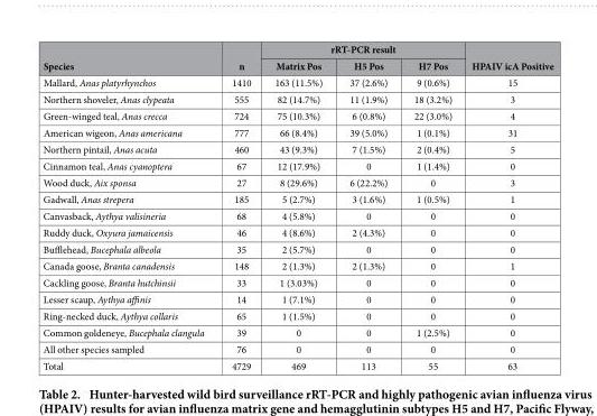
<table><thead><tr><td rowspan="2">Species</td><td rowspan="2">n</td><td colspan="3">rRT-PCR result</td><td rowspan="2">HPAIV icA Positive</td></tr><tr><td>Matrix Pos</td><td>H5 Pos</td><td>H7 Pos</td></tr></thead><tbody><tr><td>Mallard, Anas platyrhynchos</td><td>1410</td><td>163 (11.5%)</td><td>37 (2.6%)</td><td>9 (0.6%)</td><td>15</td></tr><tr><td>Northern shoveler, Anas clypeata</td><td>555</td><td>82 (14.7%)</td><td>11 (1.9%)</td><td>18 (3.2%)</td><td>3</td></tr><tr><td>Green-winged teal, Anas crecca</td><td>724</td><td>75 (10.3%)</td><td>6 (0.8%)</td><td>22 (3.0%)</td><td>4</td></tr><tr><td>American wigeon, Anas americana</td><td>777</td><td>66 (8.4%)</td><td>39 (5.0%)</td><td>1 (0.1%)</td><td>31</td></tr><tr><td>Northern pintail, Anas acuta</td><td>460</td><td>43 (9.3%)</td><td>7 (1.5%)</td><td>2 (0.4%)</td><td>5</td></tr><tr><td>Cinnamon teal, Anas cyanoptera</td><td>67</td><td>12 (17.9%)</td><td>0</td><td>1 (1.4%)</td><td>0</td></tr><tr><td>Wood duck, Aix sponsa</td><td>27</td><td>8 (29.6%)</td><td>6 (22.2%)</td><td>0</td><td>3</td></tr><tr><td>Gadwall, Anas strepera</td><td>185</td><td>5 (2.7%)</td><td>3 (1.6%)</td><td>1 (0.5%)</td><td>1</td></tr><tr><td>Canvasback, Aythya valisineria</td><td>68</td><td>4 (5.8%)</td><td>0</td><td>0</td><td>0</td></tr><tr><td>Ruddy duck, Oxyura jamaicensis</td><td>46</td><td>4 (8.6%)</td><td>2 (4.3%)</td><td>0</td><td>0</td></tr><tr><td>Bufflehead, Bucephala albeola</td><td>35</td><td>2 (5.7%)</td><td>0</td><td>0</td><td>0</td></tr><tr><td>Canada goose, Branta canadensis</td><td>148</td><td>2 (1.3%)</td><td>2 (1.3%)</td><td>0</td><td>1</td></tr><tr><td>Cackling goose, Branta hutchinsii</td><td>33</td><td>1 (3.03%)</td><td>0</td><td>0</td><td>0</td></tr><tr><td>Lesser scaup, Aythya affinis</td><td>14</td><td>1 (7.1%)</td><td>0</td><td>0</td><td>0</td></tr><tr><td>Ring-necked duck, Aythya collaris</td><td>65</td><td>1 (1.5%)</td><td>0</td><td>0</td><td>0</td></tr><tr><td>Common goldeneye, Bucephala clangula</td><td>39</td><td>0</td><td>0</td><td>1 (2.5%)</td><td>0</td></tr><tr><td>All other species sampled</td><td>76</td><td>0</td><td>0</td><td>0</td><td>0</td></tr><tr><td>Total</td><td>4729</td><td>469</td><td>113</td><td>55</td><td>63</td></tr></tbody></table>